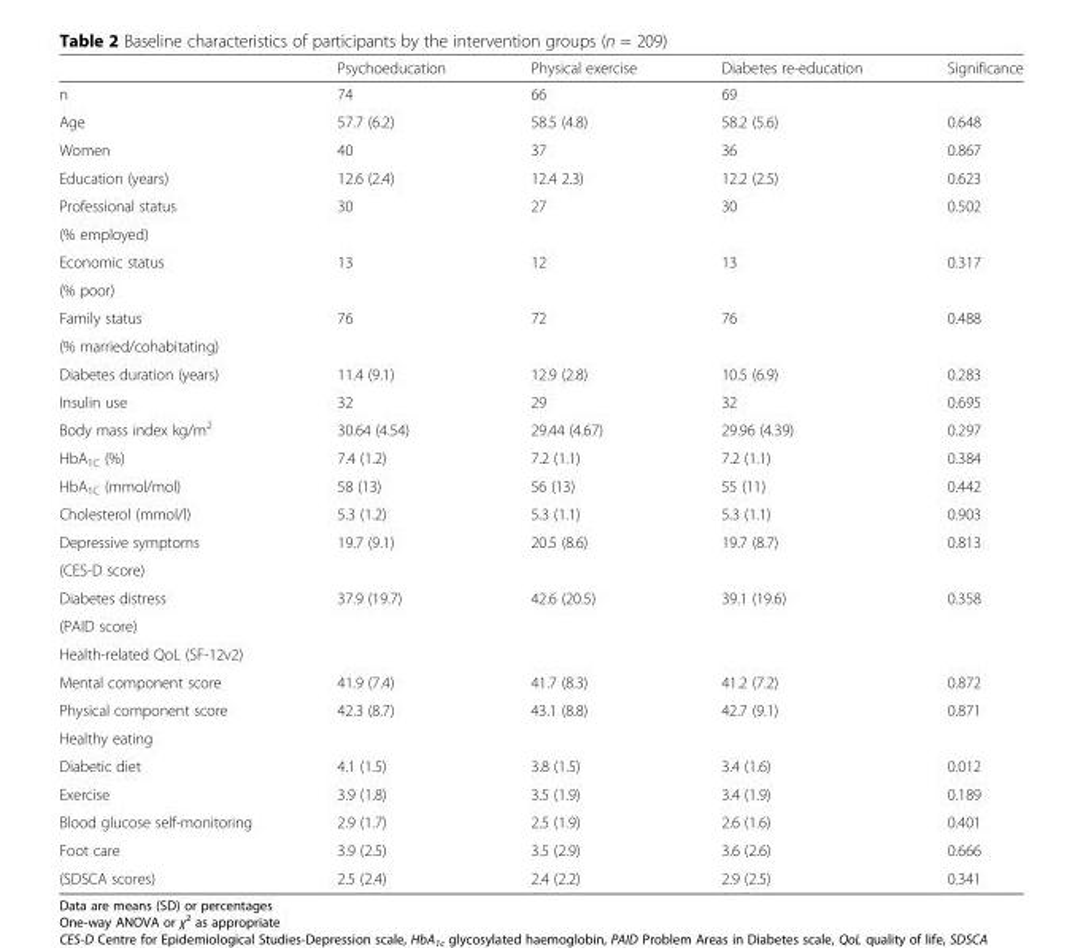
<table><thead><tr><td></td><td>Psychoeducation</td><td>Physical exercise</td><td>Diabetes re-education</td><td>Significance</td></tr></thead><tbody><tr><td>n</td><td>74</td><td>66</td><td>69</td><td></td></tr><tr><td>Age</td><td>57.7 (6.2)</td><td>58.5 (4.8)</td><td>58.2 (5.6)</td><td>0.648</td></tr><tr><td>Women</td><td>40</td><td>37</td><td>36</td><td>0.867</td></tr><tr><td>Education (years)</td><td>12.6 (2.4)</td><td>12.4 2.3)</td><td>12.2 (2.5)</td><td>0.623</td></tr><tr><td>Professional status</td><td>30</td><td>27</td><td>30</td><td>0.502</td></tr><tr><td colspan="5">(% employed)</td></tr><tr><td>Economic status</td><td>13</td><td>12</td><td>13</td><td>0.317</td></tr><tr><td colspan="5">(% poor)</td></tr><tr><td>Family status</td><td>76</td><td>72</td><td>76</td><td>0.488</td></tr><tr><td colspan="5">(% married/cohabitating)</td></tr><tr><td>Diabetes duration (years)</td><td>11.4 (9.1)</td><td>12.9 (2.8)</td><td>10.5 (6.9)</td><td>0.283</td></tr><tr><td>Insulin use</td><td>32</td><td>29</td><td>32</td><td>0.695</td></tr><tr><td>Body mass index kg/m<sup>2</sup></td><td>30.64 (4.54)</td><td>29.44 (4.67)</td><td>29.96 (4.39)</td><td>0.297</td></tr><tr><td>HbA<sub>1C</sub> (%)</td><td>7.4 (1.2)</td><td>7.2 (1.1)</td><td>7.2 (1.1)</td><td>0.384</td></tr><tr><td>HbA<sub>1C</sub> (mmol/mol)</td><td>58 (13)</td><td>56 (13)</td><td>55 (11)</td><td>0.442</td></tr><tr><td>Cholesterol (mmol/l)</td><td>5.3 (1.2)</td><td>5.3 (1.1)</td><td>5.3 (1.1)</td><td>0.903</td></tr><tr><td>Depressive symptoms</td><td>19.7 (9.1)</td><td>20.5 (8.6)</td><td>19.7 (8.7)</td><td>0.813</td></tr><tr><td colspan="5">(CES-D score)</td></tr><tr><td>Diabetes distress</td><td>37.9 (19.7)</td><td>42.6 (20.5)</td><td>39.1 (19.6)</td><td>0.358</td></tr><tr><td colspan="5">(PAID score)</td></tr><tr><td colspan="5">Health-related QoL (SF-12v2)</td></tr><tr><td>Mental component score</td><td>41.9 (7.4)</td><td>41.7 (8.3)</td><td>41.2 (7.2)</td><td>0.872</td></tr><tr><td>Physical component score</td><td>42.3 (8.7)</td><td>43.1 (8.8)</td><td>42.7 (9.1)</td><td>0.871</td></tr><tr><td colspan="5">Healthy eating</td></tr><tr><td>Diabetic diet</td><td>4.1 (1.5)</td><td>3.8 (1.5)</td><td>3.4 (1.6)</td><td>0.012</td></tr><tr><td>Exercise</td><td>3.9 (1.8)</td><td>3.5 (1.9)</td><td>3.4 (1.9)</td><td>0.189</td></tr><tr><td>Blood glucose self-monitoring</td><td>2.9 (1.7)</td><td>2.5 (1.9)</td><td>2.6 (1.6)</td><td>0.401</td></tr><tr><td>Foot care</td><td>3.9 (2.5)</td><td>3.5 (2.9)</td><td>3.6 (2.6)</td><td>0.666</td></tr><tr><td>(SDSCA scores)</td><td>2.5 (2.4)</td><td>2.4 (2.2)</td><td>2.9 (2.5)</td><td>0.341</td></tr></tbody></table>